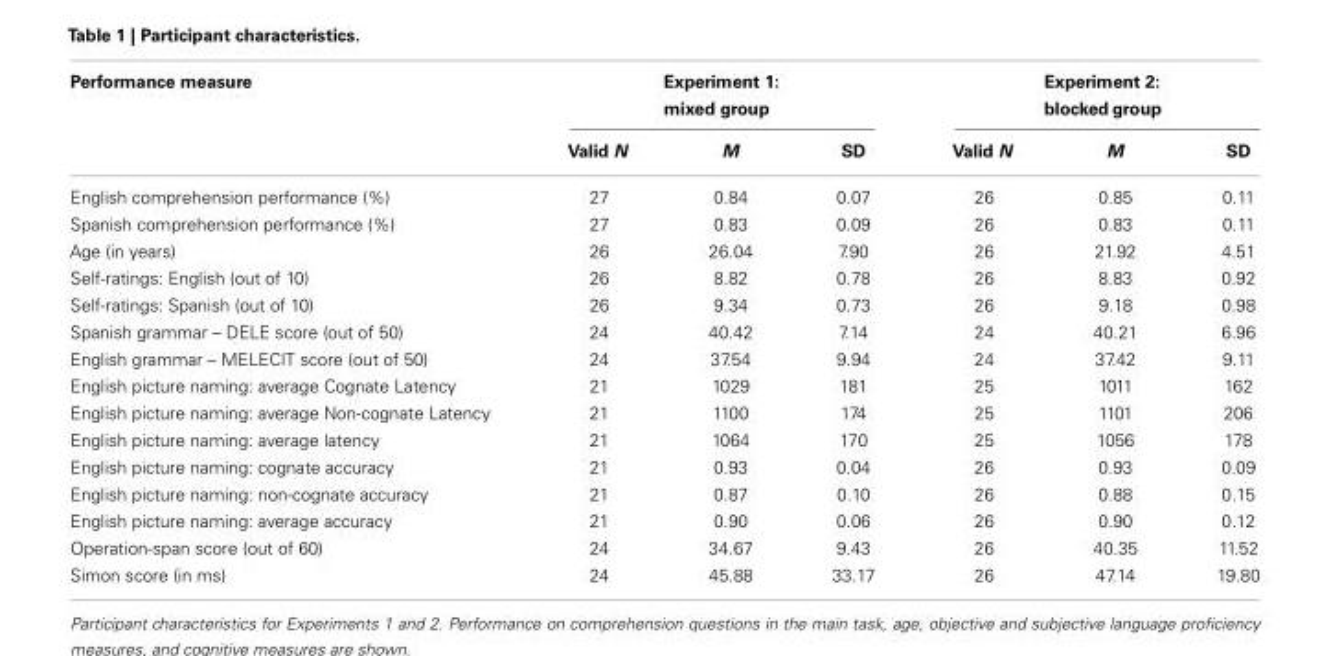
<table><thead><tr><td rowspan="2">Performance measure</td><td colspan="3">Experiment 1: mixed group</td><td colspan="3">Experiment 2: blocked group</td></tr><tr><td>Valid N</td><td>M</td><td>SD</td><td>Valid N</td><td>M</td><td>SD</td></tr></thead><tbody><tr><td>English comprehension performance (%)</td><td>27</td><td>0.84</td><td>0.07</td><td>26</td><td>0.85</td><td>0.11</td></tr><tr><td>Spanish comprehension performance (%)</td><td>27</td><td>0.83</td><td>0.09</td><td>26</td><td>0.83</td><td>0.11</td></tr><tr><td>Age (in years)</td><td>26</td><td>26.04</td><td>7.90</td><td>26</td><td>21.92</td><td>4.51</td></tr><tr><td>Self-ratings: English (out of 10)</td><td>26</td><td>8.82</td><td>0.78</td><td>26</td><td>8.83</td><td>0.92</td></tr><tr><td>Self-ratings: Spanish (out of 10)</td><td>26</td><td>9.34</td><td>0.73</td><td>26</td><td>9.18</td><td>0.98</td></tr><tr><td>Spanish grammar – DELE score (out of 50)</td><td>24</td><td>40.42</td><td>7.14</td><td>24</td><td>40.21</td><td>6.96</td></tr><tr><td>English grammar – MELECIT score (out of 50)</td><td>24</td><td>37.54</td><td>9.94</td><td>24</td><td>37.42</td><td>9.11</td></tr><tr><td>English picture naming: average Cognate Latency</td><td>21</td><td>1029</td><td>181</td><td>25</td><td>1011</td><td>162</td></tr><tr><td>English picture naming: average Non-cognate Latency</td><td>21</td><td>1100</td><td>174</td><td>25</td><td>1101</td><td>206</td></tr><tr><td>English picture naming: average latency</td><td>21</td><td>1064</td><td>170</td><td>25</td><td>1056</td><td>178</td></tr><tr><td>English picture naming: cognate accuracy</td><td>21</td><td>0.93</td><td>0.04</td><td>26</td><td>0.93</td><td>0.09</td></tr><tr><td>English picture naming: non-cognate accuracy</td><td>21</td><td>0.87</td><td>0.10</td><td>26</td><td>0.88</td><td>0.15</td></tr><tr><td>English picture naming: average accuracy</td><td>21</td><td>0.90</td><td>0.06</td><td>26</td><td>0.90</td><td>0.12</td></tr><tr><td>Operation-span score (out of 60)</td><td>24</td><td>34.67</td><td>9.43</td><td>26</td><td>40.35</td><td>11.52</td></tr><tr><td>Simon score (in ms)</td><td>24</td><td>45.88</td><td>33.17</td><td>26</td><td>47.14</td><td>19.80</td></tr></tbody></table>